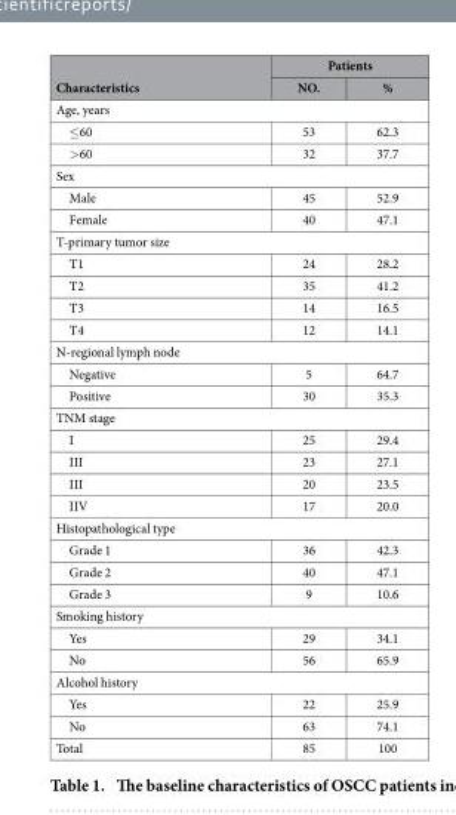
<table><thead><tr><td rowspan="2">Characteristics</td><td colspan="2">Patients</td></tr><tr><td>NO.</td><td>%</td></tr></thead><tbody><tr><td colspan="3">Age, years</td></tr><tr><td>≤ 60</td><td>53</td><td>62.3</td></tr><tr><td>&gt; 60</td><td>32</td><td>37.7</td></tr><tr><td colspan="3">Sex</td></tr><tr><td>Male</td><td>45</td><td>52.9</td></tr><tr><td>Female</td><td>40</td><td>47.1</td></tr><tr><td colspan="3">T-primary tumor size</td></tr><tr><td>T1</td><td>24</td><td>28.2</td></tr><tr><td>T2</td><td>35</td><td>41.2</td></tr><tr><td>T3</td><td>14</td><td>16.5</td></tr><tr><td>T4</td><td>12</td><td>14.1</td></tr><tr><td colspan="3">N-regional lymph node</td></tr><tr><td>Negative</td><td>5</td><td>64.7</td></tr><tr><td>Positive</td><td>30</td><td>35.3</td></tr><tr><td colspan="3">TNM stage</td></tr><tr><td>I</td><td>25</td><td>29.4</td></tr><tr><td>III</td><td>23</td><td>27.1</td></tr><tr><td>III</td><td>20</td><td>23.5</td></tr><tr><td>IIV</td><td>17</td><td>20.0</td></tr><tr><td colspan="3">Histopathological type</td></tr><tr><td>Grade 1</td><td>36</td><td>42.3</td></tr><tr><td>Grade 2</td><td>40</td><td>47.1</td></tr><tr><td>Grade 3</td><td>9</td><td>10.6</td></tr><tr><td colspan="3">Smoking history</td></tr><tr><td>Yes</td><td>29</td><td>34.1</td></tr><tr><td>No</td><td>56</td><td>65.9</td></tr><tr><td colspan="3">Alcohol history</td></tr><tr><td>Yes</td><td>22</td><td>25.9</td></tr><tr><td>No</td><td>63</td><td>74.1</td></tr><tr><td>Total</td><td>85</td><td>100</td></tr></tbody></table>